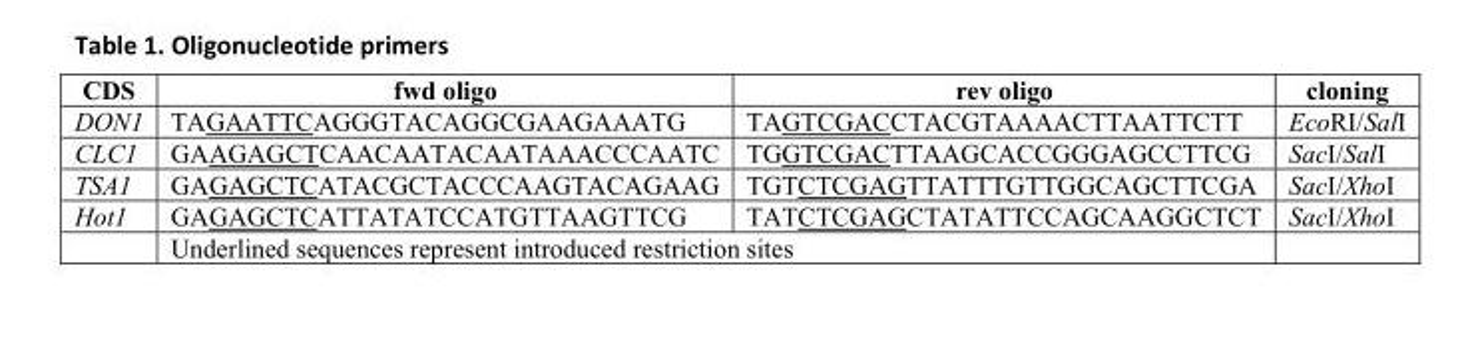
<table><thead><tr><td>CDS</td><td>fwd oligo</td><td>rev oligo</td><td>cloning</td></tr></thead><tbody><tr><td>DON1</td><td>TAGAATTCAGGGTACAGGCGAAGAAATG</td><td>TAGTCGACCTACGTAAAACTTAATTCTT</td><td>EcoRI/SalI</td></tr><tr><td>CLC1</td><td>GAAGAGCTCAACAATACAATAAACCCAATC</td><td>TGGTCGACTTAAGCACCGGGAGCCTTCG</td><td>SacI/SalI</td></tr><tr><td>TSA1</td><td>GAGAGCTCATACGCTACCCAAGTACAGAAG</td><td>TGTCTCGAGTTATTTGTTGGCAGCTTCGA</td><td>SacI/XhoI</td></tr><tr><td rowspan="2">Hot1</td><td>GAGAGCTCATTATATCCATGTTAAGTTCG</td><td>TATCTCGAGCTATATTCCAGCAAGGCTCT</td><td>SacI/XhoI</td></tr><tr><td colspan="2">Underlined sequences represent introduced restriction sites</td><td></td></tr></tbody></table>